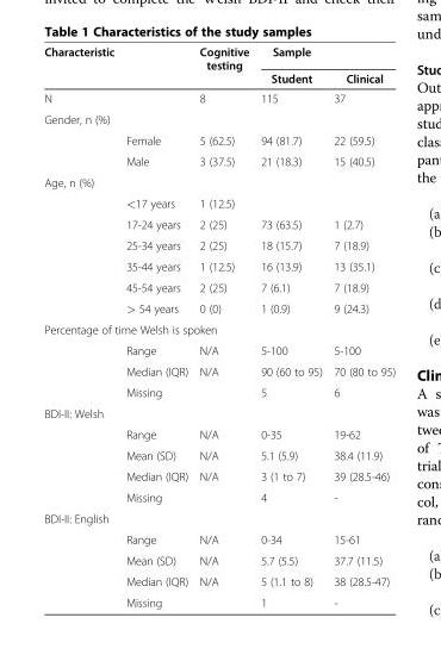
<table><thead><tr><td rowspan="2">Characteristic</td><td rowspan="2"></td><td rowspan="2">Cognitive testing</td><td rowspan="2">Sample Student</td><td rowspan="2">Clinical</td></tr><tr></tr></thead><tbody><tr><td>N</td><td></td><td>8</td><td>115</td><td>37</td></tr><tr><td colspan="5">Gender, n (%)</td></tr><tr><td></td><td>Female</td><td>5 (62.5)</td><td>94 (81.7)</td><td>22 (59.5)</td></tr><tr><td></td><td>Male</td><td>3 (37.5)</td><td>21 (18.3)</td><td>15 (40.5)</td></tr><tr><td colspan="5">Age, n (%)</td></tr><tr><td></td><td>&lt;17 years</td><td>1 (12.5)</td><td></td><td></td></tr><tr><td></td><td>17-24 years</td><td>2 (25)</td><td>73 (63.5)</td><td>1 (2.7)</td></tr><tr><td></td><td>25-34 years</td><td>2 (25)</td><td>18 (15.7)</td><td>7 (18.9)</td></tr><tr><td></td><td>35-44 years</td><td>1 (12.5)</td><td>16 (13.9)</td><td>13 (35.1)</td></tr><tr><td></td><td>45-54 years</td><td>2 (25)</td><td>7 (6.1)</td><td>7 (18.9)</td></tr><tr><td></td><td>&gt; 54 years</td><td>0 (0)</td><td>1 (0.9)</td><td>9 (24.3)</td></tr><tr><td colspan="5">Percentage of time Welsh is spoken</td></tr><tr><td></td><td>Range</td><td>N/A</td><td>5-100</td><td>5-100</td></tr><tr><td></td><td>Median (IQR)</td><td>N/A</td><td>90 (60 to 95)</td><td>70 (80 to 95)</td></tr><tr><td></td><td>Missing</td><td></td><td>5</td><td>6</td></tr><tr><td colspan="5">BDI-II: Welsh</td></tr><tr><td></td><td>Range</td><td>N/A</td><td>0-35</td><td>19-62</td></tr><tr><td></td><td>Mean (SD)</td><td>N/A</td><td>5.1 (5.9)</td><td>38.4 (11.9)</td></tr><tr><td></td><td>Median (IQR)</td><td>N/A</td><td>3 (1 to 7)</td><td>39 (28.5-46)</td></tr><tr><td></td><td>Missing</td><td></td><td>4</td><td>-</td></tr><tr><td colspan="5">BDI-II: English</td></tr><tr><td></td><td>Range</td><td>N/A</td><td>0-34</td><td>15-61</td></tr><tr><td></td><td>Mean (SD)</td><td>N/A</td><td>5.7 (5.5)</td><td>37.7 (11.5)</td></tr><tr><td></td><td>Median (IQR)</td><td>N/A</td><td>5 (1.1 to 8)</td><td>38 (28.5-47)</td></tr><tr><td></td><td>Missing</td><td></td><td>1</td><td>-</td></tr></tbody></table>